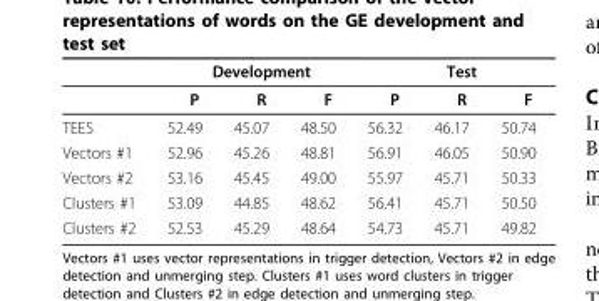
<table><thead><tr><td rowspan="2"></td><td colspan="3">Development</td><td colspan="3">Test</td></tr><tr><td>P</td><td>R</td><td>F</td><td>P</td><td>R</td><td>F</td></tr></thead><tbody><tr><td>TEES</td><td>52.49</td><td>45.07</td><td>48.50</td><td>56.32</td><td>46.17</td><td>50.74</td></tr><tr><td>Vectors #1</td><td>52.96</td><td>45.26</td><td>48.81</td><td>56.91</td><td>46.05</td><td>50.90</td></tr><tr><td>Vectors #2</td><td>53.16</td><td>45.45</td><td>49.00</td><td>55.97</td><td>45.71</td><td>50.33</td></tr><tr><td>Clusters #1</td><td>53.09</td><td>44.85</td><td>48.62</td><td>56.41</td><td>45.71</td><td>50.50</td></tr><tr><td>Clusters #2</td><td>52.53</td><td>45.29</td><td>48.64</td><td>54.73</td><td>45.71</td><td>49.82</td></tr></tbody></table>